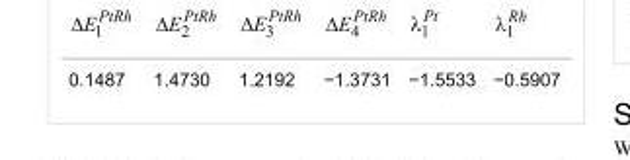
<table><tbody><tr><td>0.1487</td><td>1.4730</td><td>1.2192</td><td>−1.3731</td><td>−1.5533</td><td>−0.5907</td></tr></tbody></table>